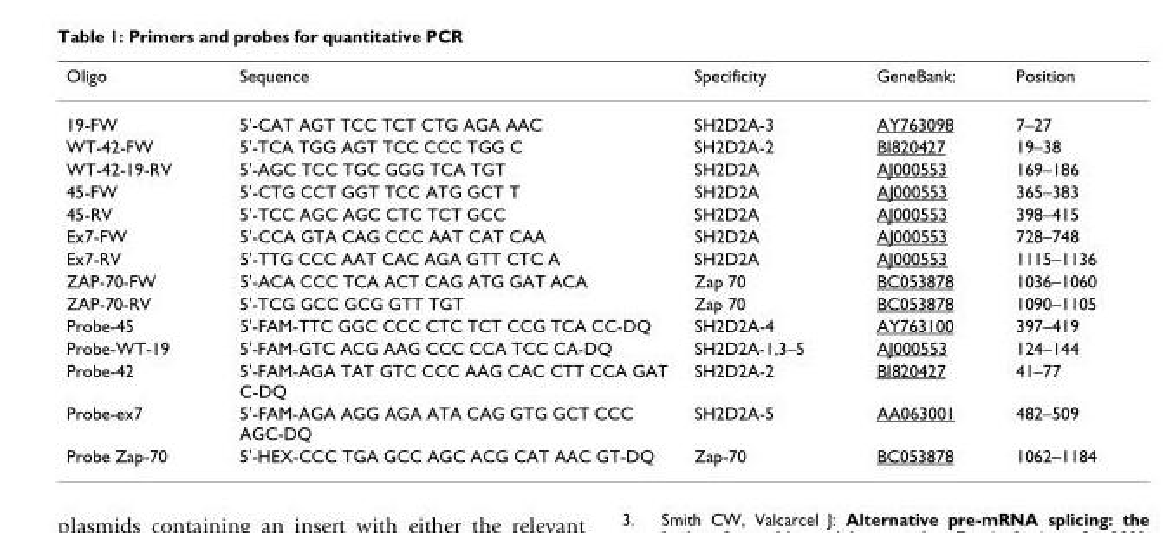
<table><thead><tr><td>Oligo</td><td>Sequence</td><td>Specificity</td><td>GeneBank:</td><td>Position</td></tr></thead><tbody><tr><td>19-FW</td><td>5&#x27;-CAT AGT TCC TCT CTG AGA AAC</td><td>SH2D2A-3</td><td>AY763098</td><td>7–27</td></tr><tr><td>WT-42-FW</td><td>5&#x27;-TCA TGG AGT TCC CCC TGG C</td><td>SH2D2A-2</td><td>BI820427</td><td>19–38</td></tr><tr><td>WT-42-19-RV</td><td>5&#x27;-AGC TCC TGC GGG TCA TGT</td><td>SH2D2A</td><td>AJ000553</td><td>169–186</td></tr><tr><td>45-FW</td><td>5&#x27;-CTG CCT GGT TCC ATG GCT T</td><td>SH2D2A</td><td>AJ000553</td><td>365–383</td></tr><tr><td>45-RV</td><td>5&#x27;-TCC AGC AGC CTC TCT GCC</td><td>SH2D2A</td><td>AJ000553</td><td>398–415</td></tr><tr><td>Ex7-FW</td><td>5&#x27;-CCA GTA CAG CCC AAT CAT CAA</td><td>SH2D2A</td><td>AJ000553</td><td>728–748</td></tr><tr><td>Ex7-RV</td><td>5&#x27;-TTG CCC AAT CAC AGA GTT CTC A</td><td>SH2D2A</td><td>AJ000553</td><td>1115–1136</td></tr><tr><td>ZAP-70-FW</td><td>5&#x27;-ACA CCC TCA ACT CAG ATG GAT ACA</td><td>Zap 70</td><td>BC053878</td><td>1036–1060</td></tr><tr><td>ZAP-70-RV</td><td>5&#x27;-TCG GCC GCG GTT TGT</td><td>Zap 70</td><td>BC053878</td><td>1090–1105</td></tr><tr><td>Probe-45</td><td>5&#x27;-FAM-TTC GGC CCC CTC TCT CCG TCA CC-DQ</td><td>SH2D2A-4</td><td>AY763100</td><td>397–419</td></tr><tr><td>Probe-WT-19</td><td>5&#x27;-FAM-GTC ACG AAG CCC CCA TCC CA-DQ</td><td>SH2D2A-1,3–5</td><td>AJ000553</td><td>124–144</td></tr><tr><td>Probe-42</td><td>5&#x27;-FAM-AGA TAT GTC CCC AAG CAC CTT CCA GAT C-DQ</td><td>SH2D2A-2</td><td>BI820427</td><td>41–77</td></tr><tr><td>Probe-ex7</td><td>5&#x27;-FAM-AGA AGG AGA ATA CAG GTG GCT CCC AGC-DQ</td><td>SH2D2A-5</td><td>AA063001</td><td>482–509</td></tr><tr><td>Probe Zap-70</td><td>5&#x27;-HEX-CCC TGA GCC AGC ACG CAT AAC GT-DQ</td><td>Zap-70</td><td>BC053878</td><td>1062–1184</td></tr></tbody></table>